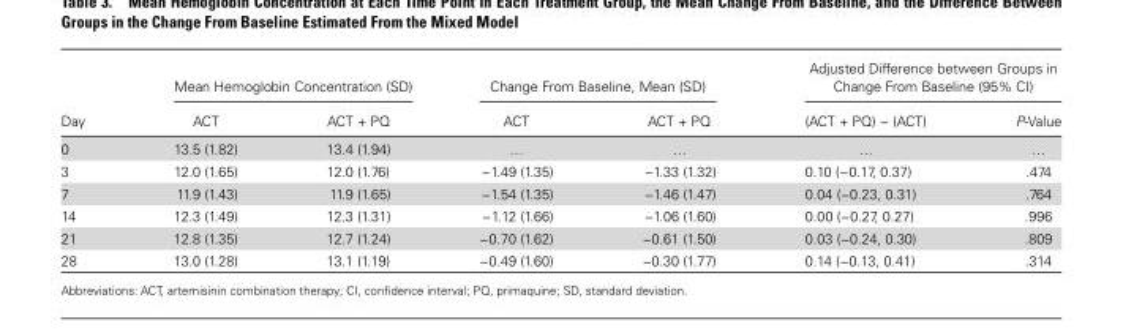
<table><thead><tr><td rowspan="2">Day</td><td colspan="2">Mean Hemoglobin Concentration (SD)</td><td colspan="2">Change From Baseline, Mean (SD)</td><td colspan="2">Adjusted Difference between Groups in Change From Baseline (95% CI)</td></tr><tr><td>ACT</td><td>ACT + PQ</td><td>ACT</td><td>ACT + PQ</td><td>(ACT + PQ) − (ACT)</td><td>P-Value</td></tr></thead><tbody><tr><td>0</td><td>13.5 (1.82)</td><td>13.4 (1.94)</td><td>…</td><td>…</td><td>…</td><td>…</td></tr><tr><td>3</td><td>12.0 (1.65)</td><td>12.0 (1.76)</td><td>−1.49 (1.35)</td><td>−1.33 (1.32)</td><td>0.10 (−0.17, 0.37)</td><td>.474</td></tr><tr><td>7</td><td>11.9 (1.43)</td><td>11.9 (1.65)</td><td>−1.54 (1.35)</td><td>−1.46 (1.47)</td><td>0.04 (−0.23, 0.31)</td><td>.764</td></tr><tr><td>14</td><td>12.3 (1.49)</td><td>12.3 (1.31)</td><td>−1.12 (1.66)</td><td>−1.06 (1.60)</td><td>0.00 (−0.27, 0.27)</td><td>.996</td></tr><tr><td>21</td><td>12.8 (1.35)</td><td>12.7 (1.24)</td><td>−0.70 (1.62)</td><td>−0.61 (1.50)</td><td>0.03 (−0.24, 0.30)</td><td>.809</td></tr><tr><td>28</td><td>13.0 (1.28)</td><td>13.1 (1.19)</td><td>−0.49 (1.60)</td><td>−0.30 (1.77)</td><td>0.14 (−0.13, 0.41)</td><td>.314</td></tr></tbody></table>